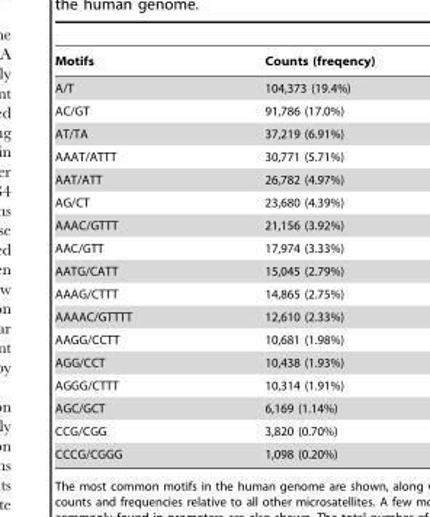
<table><thead><tr><td>Motifs</td><td>Counts (freqency)</td></tr></thead><tbody><tr><td>A/T</td><td>104,373 (19.4%)</td></tr><tr><td>AC/GT</td><td>91,786 (17.0%)</td></tr><tr><td>AT/TA</td><td>37,219 (6.91%)</td></tr><tr><td>AAAT/ATTT</td><td>30,771 (5.71%)</td></tr><tr><td>AAT/ATT</td><td>26,782 (4.97%)</td></tr><tr><td>AG/CT</td><td>23,680 (4.39%)</td></tr><tr><td>AAAC/GTTT</td><td>21,156 (3.92%)</td></tr><tr><td>AAC/GTT</td><td>17,974 (3.33%)</td></tr><tr><td>AATG/CATT</td><td>15,045 (2.79%)</td></tr><tr><td>AAAG/CTTT</td><td>14,865 (2.75%)</td></tr><tr><td>AAAAC/GTTTT</td><td>12,610 (2.33%)</td></tr><tr><td>AAGG/CCTT</td><td>10,681 (1.98%)</td></tr><tr><td>AGG/CCT</td><td>10,438 (1.93%)</td></tr><tr><td>AGGG/CTTT</td><td>10,314 (1.91%)</td></tr><tr><td>AGC/GCT</td><td>6,169 (1.14%)</td></tr><tr><td>CCG/CGG</td><td>3,820 (0.70%)</td></tr><tr><td>CCCG/CGGG</td><td>1,098 (0.20%)</td></tr></tbody></table>